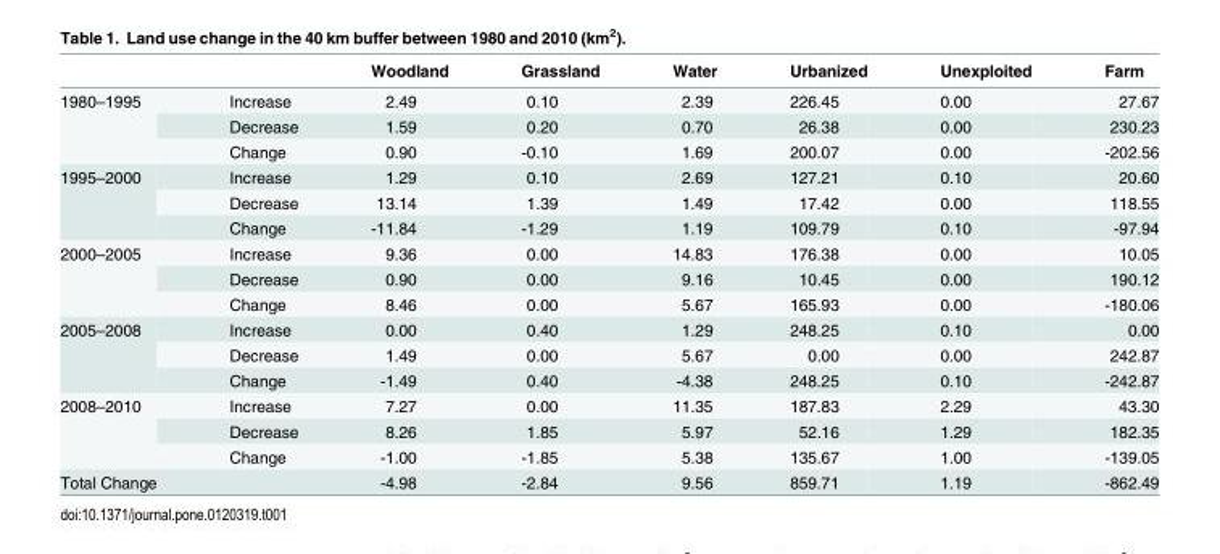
<table><thead><tr><td></td><td></td><td>Woodland</td><td>Grassland</td><td>Water</td><td>Urbanized</td><td>Unexploited</td><td>Farm</td></tr></thead><tbody><tr><td rowspan="3">1980–1995</td><td>Increase</td><td>2.49</td><td>0.10</td><td>2.39</td><td>226.45</td><td>0.00</td><td>27.67</td></tr><tr><td>Decrease</td><td>1.59</td><td>0.20</td><td>0.70</td><td>26.38</td><td>0.00</td><td>230.23</td></tr><tr><td>Change</td><td>0.90</td><td>-0.10</td><td>1.69</td><td>200.07</td><td>0.00</td><td>-202.56</td></tr><tr><td rowspan="3">1995–2000</td><td>Increase</td><td>1.29</td><td>0.10</td><td>2.69</td><td>127.21</td><td>0.10</td><td>20.60</td></tr><tr><td>Decrease</td><td>13.14</td><td>1.39</td><td>1.49</td><td>17.42</td><td>0.00</td><td>118.55</td></tr><tr><td>Change</td><td>-11.84</td><td>-1.29</td><td>1.19</td><td>109.79</td><td>0.10</td><td>-97.94</td></tr><tr><td rowspan="3">2000–2005</td><td>Increase</td><td>9.36</td><td>0.00</td><td>14.83</td><td>176.38</td><td>0.00</td><td>10.05</td></tr><tr><td>Decrease</td><td>0.90</td><td>0.00</td><td>9.16</td><td>10.45</td><td>0.00</td><td>190.12</td></tr><tr><td>Change</td><td>8.46</td><td>0.00</td><td>5.67</td><td>165.93</td><td>0.00</td><td>-180.06</td></tr><tr><td rowspan="3">2005–2008</td><td>Increase</td><td>0.00</td><td>0.40</td><td>1.29</td><td>248.25</td><td>0.10</td><td>0.00</td></tr><tr><td>Decrease</td><td>1.49</td><td>0.00</td><td>5.67</td><td>0.00</td><td>0.00</td><td>242.87</td></tr><tr><td>Change</td><td>-1.49</td><td>0.40</td><td>-4.38</td><td>248.25</td><td>0.10</td><td>-242.87</td></tr><tr><td rowspan="3">2008–2010</td><td>Increase</td><td>7.27</td><td>0.00</td><td>11.35</td><td>187.83</td><td>2.29</td><td>43.30</td></tr><tr><td>Decrease</td><td>8.26</td><td>1.85</td><td>5.97</td><td>52.16</td><td>1.29</td><td>182.35</td></tr><tr><td>Change</td><td>-1.00</td><td>-1.85</td><td>5.38</td><td>135.67</td><td>1.00</td><td>-139.05</td></tr><tr><td>Total Change</td><td></td><td>-4.98</td><td>-2.84</td><td>9.56</td><td>859.71</td><td>1.19</td><td>-862.49</td></tr></tbody></table>